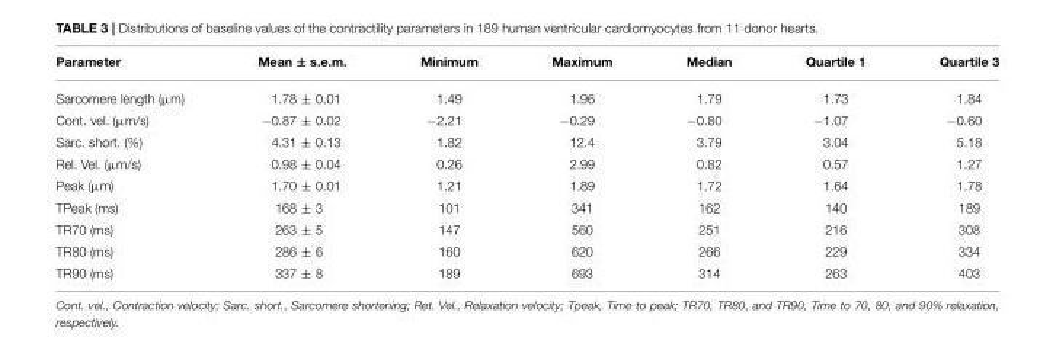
<table><thead><tr><td>Parameter</td><td>Mean ± s.e.m.</td><td>Minimum</td><td>Maximum</td><td>Median</td><td>Quartile 1</td><td>Quartile 3</td></tr></thead><tbody><tr><td>Sarcomere length (µm)</td><td>1.78 ± 0.01</td><td>1.49</td><td>1.96</td><td>1.79</td><td>1.73</td><td>1.84</td></tr><tr><td>Cont. vel. (µm/s)</td><td>−0.87 ± 0.02</td><td>−2.21</td><td>−0.29</td><td>−0.80</td><td>−1.07</td><td>−0.60</td></tr><tr><td>Sarc. short. (%)</td><td>4.31 ± 0.13</td><td>1.82</td><td>12.4</td><td>3.79</td><td>3.04</td><td>5.18</td></tr><tr><td>Rel. Vel. (µm/s)</td><td>0.98 ± 0.04</td><td>0.26</td><td>2.99</td><td>0.82</td><td>0.57</td><td>1.27</td></tr><tr><td>Peak (µm)</td><td>1.70 ± 0.01</td><td>1.21</td><td>1.89</td><td>1.72</td><td>1.64</td><td>1.78</td></tr><tr><td>TPeak (ms)</td><td>168 ± 3</td><td>101</td><td>341</td><td>162</td><td>140</td><td>189</td></tr><tr><td>TR70 (ms)</td><td>263 ± 5</td><td>147</td><td>560</td><td>251</td><td>216</td><td>308</td></tr><tr><td>TR80 (ms)</td><td>286 ± 6</td><td>160</td><td>620</td><td>266</td><td>229</td><td>334</td></tr><tr><td>TR90 (ms)</td><td>337 ± 8</td><td>189</td><td>693</td><td>314</td><td>263</td><td>403</td></tr></tbody></table>